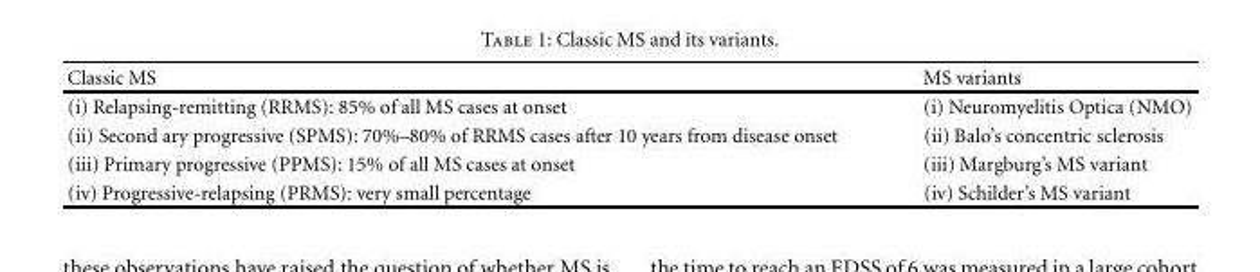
<table><thead><tr><td>Classic MS</td><td>MS variants</td></tr></thead><tbody><tr><td>(i) Relapsing-remitting (RRMS): 85% of all MS cases at onset</td><td>(i) Neuromyelitis Optica (NMO)</td></tr><tr><td>(ii) Second ary progressive (SPMS): 70%–80% of RRMS cases after 10 years from disease onset</td><td>(ii) Balo’s concentric sclerosis</td></tr><tr><td>(iii) Primary progressive (PPMS): 15% of all MS cases at onset</td><td>(iii) Margburg’s MS variant</td></tr><tr><td>(iv) Progressive-relapsing (PRMS): very small percentage</td><td>(iv) Schilder’s MS variant</td></tr></tbody></table>